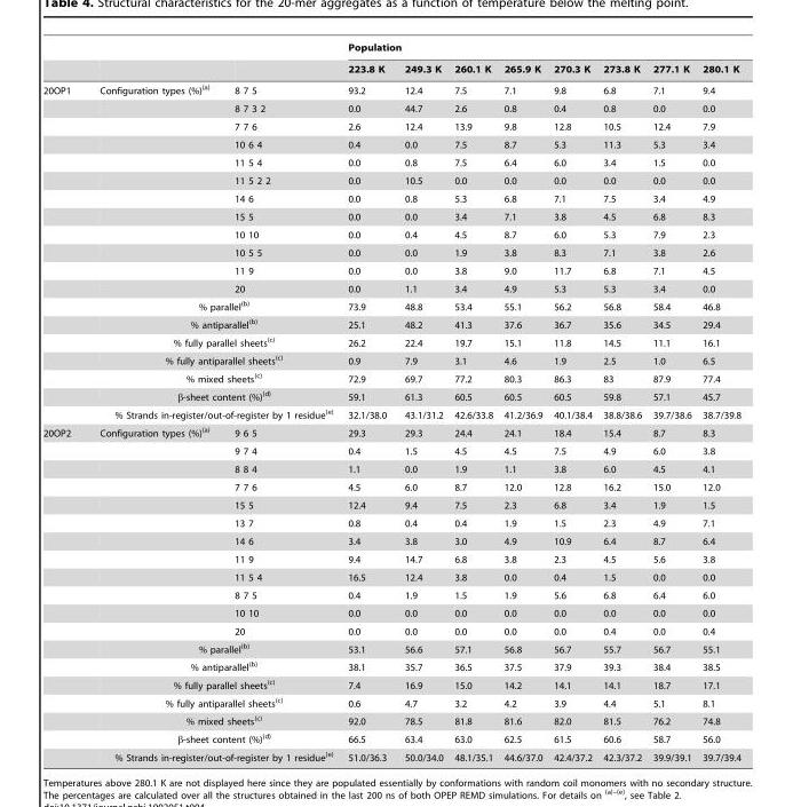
<table><thead><tr><td rowspan="2"></td><td rowspan="2"></td><td rowspan="2"></td><td colspan="8">Population</td></tr><tr><td>223.8 K</td><td>249.3 K</td><td>260.1 K</td><td>265.9 K</td><td>270.3 K</td><td>273.8 K</td><td>277.1 K</td><td>280.1 K</td></tr></thead><tbody><tr><td rowspan="19">20OP1</td><td>Configuration types (%)<sup>(a)</sup></td><td>8 7 5</td><td>93.2</td><td>12.4</td><td>7.5</td><td>7.1</td><td>9.8</td><td>6.8</td><td>7.1</td><td>9.4</td></tr><tr><td></td><td>8 7 3 2</td><td>0.0</td><td>44.7</td><td>2.6</td><td>0.8</td><td>0.4</td><td>0.8</td><td>0.0</td><td>0.0</td></tr><tr><td></td><td>7 7 6</td><td>2.6</td><td>12.4</td><td>13.9</td><td>9.8</td><td>12.8</td><td>10.5</td><td>12.4</td><td>7.9</td></tr><tr><td></td><td>10 6 4</td><td>0.4</td><td>0.0</td><td>7.5</td><td>8.7</td><td>5.3</td><td>11.3</td><td>5.3</td><td>3.4</td></tr><tr><td></td><td>11 5 4</td><td>0.0</td><td>0.8</td><td>7.5</td><td>6.4</td><td>6.0</td><td>3.4</td><td>1.5</td><td>0.0</td></tr><tr><td></td><td>11 5 2 2</td><td>0.0</td><td>10.5</td><td>0.0</td><td>0.0</td><td>0.0</td><td>0.0</td><td>0.0</td><td>0.0</td></tr><tr><td></td><td>14 6</td><td>0.0</td><td>0.8</td><td>5.3</td><td>6.8</td><td>7.1</td><td>7.5</td><td>3.4</td><td>4.9</td></tr><tr><td></td><td>15 5</td><td>0.0</td><td>0.0</td><td>3.4</td><td>7.1</td><td>3.8</td><td>4.5</td><td>6.8</td><td>8.3</td></tr><tr><td></td><td>10 10</td><td>0.0</td><td>0.4</td><td>4.5</td><td>8.7</td><td>6.0</td><td>5.3</td><td>7.9</td><td>2.3</td></tr><tr><td></td><td>10 5 5</td><td>0.0</td><td>0.0</td><td>1.9</td><td>3.8</td><td>8.3</td><td>7.1</td><td>3.8</td><td>2.6</td></tr><tr><td></td><td>11 9</td><td>0.0</td><td>0.0</td><td>3.8</td><td>9.0</td><td>11.7</td><td>6.8</td><td>7.1</td><td>4.5</td></tr><tr><td></td><td>20</td><td>0.0</td><td>1.1</td><td>3.4</td><td>4.9</td><td>5.3</td><td>5.3</td><td>3.4</td><td>0.0</td></tr><tr><td colspan="2">% parallel<sup>(b)</sup></td><td>73.9</td><td>48.8</td><td>53.4</td><td>55.1</td><td>56.2</td><td>56.8</td><td>58.4</td><td>46.8</td></tr><tr><td colspan="2">% antiparallel<sup>(b)</sup></td><td>25.1</td><td>48.2</td><td>41.3</td><td>37.6</td><td>36.7</td><td>35.6</td><td>34.5</td><td>29.4</td></tr><tr><td colspan="2">% fully parallel sheets<sup>(c)</sup></td><td>26.2</td><td>22.4</td><td>19.7</td><td>15.1</td><td>11.8</td><td>14.5</td><td>11.1</td><td>16.1</td></tr><tr><td colspan="2">% fully antiparallel sheets<sup>(c)</sup></td><td>0.9</td><td>7.9</td><td>3.1</td><td>4.6</td><td>1.9</td><td>2.5</td><td>1.0</td><td>6.5</td></tr><tr><td colspan="2">% mixed sheets<sup>(c)</sup></td><td>72.9</td><td>69.7</td><td>77.2</td><td>80.3</td><td>86.3</td><td>83</td><td>87.9</td><td>77.4</td></tr><tr><td colspan="2">β-sheet content (%)<sup>(d)</sup></td><td>59.1</td><td>61.3</td><td>60.5</td><td>60.5</td><td>60.5</td><td>59.8</td><td>57.1</td><td>45.7</td></tr><tr><td colspan="2">% Strands in-register/out-of-register by 1 residue<sup>(e)</sup></td><td>32.1/38.0</td><td>43.1/31.2</td><td>42.6/33.8</td><td>41.2/36.9</td><td>40.1/38.4</td><td>38.8/38.6</td><td>39.7/38.6</td><td>38.7/39.8</td></tr><tr><td rowspan="19">20OP2</td><td>Configuration types (%)<sup>(a)</sup></td><td>9 6 5</td><td>29.3</td><td>29.3</td><td>24.4</td><td>24.1</td><td>18.4</td><td>15.4</td><td>8.7</td><td>8.3</td></tr><tr><td></td><td>9 7 4</td><td>0.4</td><td>1.5</td><td>4.5</td><td>4.5</td><td>7.5</td><td>4.9</td><td>6.0</td><td>3.8</td></tr><tr><td></td><td>8 8 4</td><td>1.1</td><td>0.0</td><td>1.9</td><td>1.1</td><td>3.8</td><td>6.0</td><td>4.5</td><td>4.1</td></tr><tr><td></td><td>7 7 6</td><td>4.5</td><td>6.0</td><td>8.7</td><td>12.0</td><td>12.8</td><td>16.2</td><td>15.0</td><td>12.0</td></tr><tr><td></td><td>15 5</td><td>12.4</td><td>9.4</td><td>7.5</td><td>2.3</td><td>6.8</td><td>3.4</td><td>1.9</td><td>1.5</td></tr><tr><td></td><td>13 7</td><td>0.8</td><td>0.4</td><td>0.4</td><td>1.9</td><td>1.5</td><td>2.3</td><td>4.9</td><td>7.1</td></tr><tr><td></td><td>14 6</td><td>3.4</td><td>3.8</td><td>3.0</td><td>4.9</td><td>10.9</td><td>6.4</td><td>8.7</td><td>6.4</td></tr><tr><td></td><td>11 9</td><td>9.4</td><td>14.7</td><td>6.8</td><td>3.8</td><td>2.3</td><td>4.5</td><td>5.6</td><td>3.8</td></tr><tr><td></td><td>11 5 4</td><td>16.5</td><td>12.4</td><td>3.8</td><td>0.0</td><td>0.4</td><td>1.5</td><td>0.0</td><td>0.0</td></tr><tr><td></td><td>8 7 5</td><td>0.4</td><td>1.9</td><td>1.5</td><td>1.9</td><td>5.6</td><td>6.8</td><td>6.4</td><td>6.0</td></tr><tr><td></td><td>10 10</td><td>0.0</td><td>0.0</td><td>0.0</td><td>0.0</td><td>0.0</td><td>0.0</td><td>0.0</td><td>0.0</td></tr><tr><td></td><td>20</td><td>0.0</td><td>0.0</td><td>0.0</td><td>0.0</td><td>0.0</td><td>0.4</td><td>0.0</td><td>0.4</td></tr><tr><td colspan="2">% parallel<sup>(b)</sup></td><td>53.1</td><td>56.6</td><td>57.1</td><td>56.8</td><td>56.7</td><td>55.7</td><td>56.7</td><td>55.1</td></tr><tr><td colspan="2">% antiparallel<sup>(b)</sup></td><td>38.1</td><td>35.7</td><td>36.5</td><td>37.5</td><td>37.9</td><td>39.3</td><td>38.4</td><td>38.5</td></tr><tr><td colspan="2">% fully parallel sheets<sup>(c)</sup></td><td>7.4</td><td>16.9</td><td>15.0</td><td>14.2</td><td>14.1</td><td>14.1</td><td>18.7</td><td>17.1</td></tr><tr><td colspan="2">% fully antiparallel sheets<sup>(c)</sup></td><td>0.6</td><td>4.7</td><td>3.2</td><td>4.2</td><td>3.9</td><td>4.4</td><td>5.1</td><td>8.1</td></tr><tr><td colspan="2">% mixed sheets<sup>(c)</sup></td><td>92.0</td><td>78.5</td><td>81.8</td><td>81.6</td><td>82.0</td><td>81.5</td><td>76.2</td><td>74.8</td></tr><tr><td colspan="2">β-sheet content (%)<sup>(d)</sup></td><td>66.5</td><td>63.4</td><td>63.0</td><td>62.5</td><td>61.5</td><td>60.6</td><td>58.7</td><td>56.0</td></tr><tr><td colspan="2">% Strands in-register/out-of-register by 1 residue<sup>(e)</sup></td><td>51.0/36.3</td><td>50.0/34.0</td><td>48.1/35.1</td><td>44.6/37.0</td><td>42.4/37.2</td><td>42.3/37.2</td><td>39.9/39.1</td><td>39.7/39.4</td></tr></tbody></table>